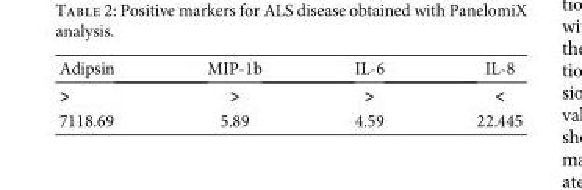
<table><thead><tr><td>Adipsin</td><td>MIP-1b</td><td>IL-6</td><td>IL-8</td></tr></thead><tbody><tr><td>&gt;</td><td>&gt;</td><td>&gt;</td><td>&lt;</td></tr><tr><td>7118.69</td><td>5.89</td><td>4.59</td><td>22.445</td></tr></tbody></table>